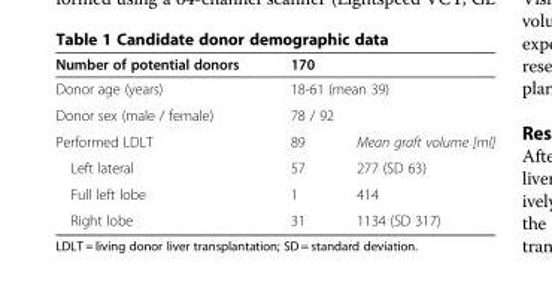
<table><thead><tr><td rowspan="4">Number of potential donors Donor age (years) Donor sex (male / female) Performed LDLT</td><td rowspan="3" colspan="2">170 18-61 (mean 39) 78 / 92</td></tr><tr></tr><tr></tr><tr><td>89</td><td>Mean graft volume [ml]</td></tr></thead><tbody><tr><td>Left lateral</td><td>57</td><td>277 (SD 63)</td></tr><tr><td>Full left lobe</td><td>1</td><td>414</td></tr><tr><td>Right lobe</td><td>31</td><td>1134 (SD 317)</td></tr></tbody></table>